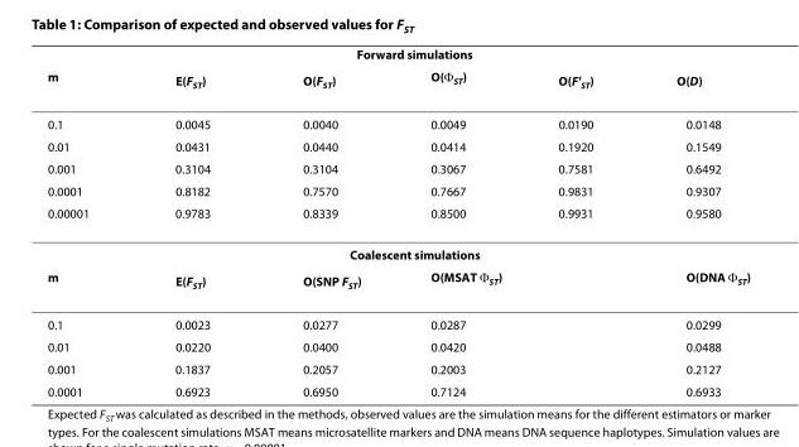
<table><thead><tr><td colspan="6">Forward simulations</td></tr><tr><td>m</td><td>E(F<sub>ST</sub>)</td><td>O(F<sub>ST</sub>)</td><td>O(Φ<sub>ST</sub>)</td><td>O(F&#x27;<sub>ST</sub>)</td><td>O(D)</td></tr></thead><tbody><tr><td>0.1</td><td>0.0045</td><td>0.0040</td><td>0.0049</td><td>0.0190</td><td>0.0148</td></tr><tr><td>0.01</td><td>0.0431</td><td>0.0440</td><td>0.0414</td><td>0.1920</td><td>0.1549</td></tr><tr><td>0.001</td><td>0.3104</td><td>0.3104</td><td>0.3067</td><td>0.7581</td><td>0.6492</td></tr><tr><td>0.0001</td><td>0.8182</td><td>0.7570</td><td>0.7667</td><td>0.9831</td><td>0.9307</td></tr><tr><td>0.00001</td><td>0.9783</td><td>0.8339</td><td>0.8500</td><td>0.9931</td><td>0.9580</td></tr><tr><td colspan="6">Coalescent simulations</td></tr><tr><td>m</td><td>E(F<sub>ST</sub>)</td><td>O(SNP F<sub>ST</sub>)</td><td colspan="2">O(MSAT Φ<sub>ST</sub>)</td><td>O(DNA Φ<sub>ST</sub>)</td></tr><tr><td>0.1</td><td>0.0023</td><td>0.0277</td><td colspan="2">0.0287</td><td>0.0299</td></tr><tr><td>0.01</td><td>0.0220</td><td>0.0400</td><td colspan="2">0.0420</td><td>0.0488</td></tr><tr><td>0.001</td><td>0.1837</td><td>0.2057</td><td colspan="2">0.2003</td><td>0.2127</td></tr><tr><td>0.0001</td><td>0.6923</td><td>0.6950</td><td colspan="2">0.7124</td><td>0.6933</td></tr></tbody></table>